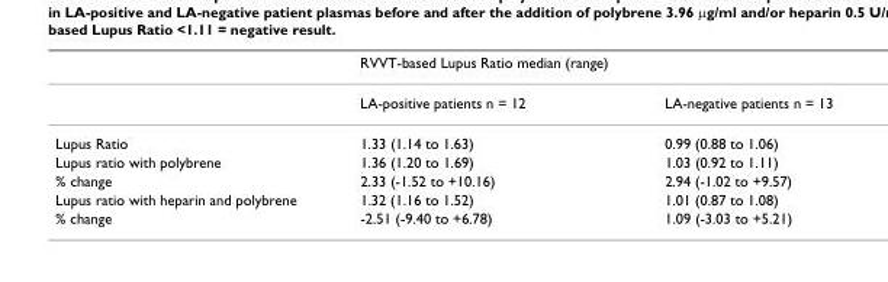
<table><thead><tr><td></td><td>RVVT-based Lupus Ratio median (range)</td><td></td></tr></thead><tbody><tr><td></td><td>LA-positive patients n = 12</td><td>LA-negative patients n = 13</td></tr><tr><td>Lupus Ratio</td><td>1.33 (1.14 to 1.63)</td><td>0.99 (0.88 to 1.06)</td></tr><tr><td>Lupus ratio with polybrene</td><td>1.36 (1.20 to 1.69)</td><td>1.03 (0.92 to 1.11)</td></tr><tr><td>% change</td><td>2.33 (-1.52 to +10.16)</td><td>2.94 (-1.02 to +9.57)</td></tr><tr><td>Lupus ratio with heparin and polybrene</td><td>1.32 (1.16 to 1.52)</td><td>1.01 (0.87 to 1.08)</td></tr><tr><td>% change</td><td>-2.51 (-9.40 to +6.78)</td><td>1.09 (-3.03 to +5.21)</td></tr></tbody></table>